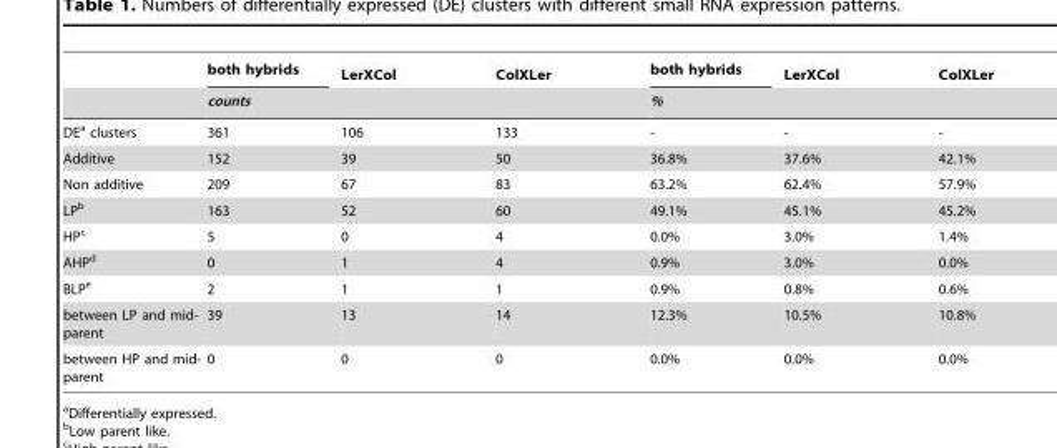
<table><thead><tr><td rowspan="2"></td><td>both hybrids</td><td>LerXCol</td><td>ColXLer</td><td>both hybrids</td><td>LerXCol</td><td>ColXLer</td></tr><tr><td colspan="3">counts</td><td colspan="3">%</td></tr></thead><tbody><tr><td>DE<sup>a</sup> clusters</td><td>361</td><td>106</td><td>133</td><td>-</td><td>-</td><td>-</td></tr><tr><td>Additive</td><td>152</td><td>39</td><td>50</td><td>36.8%</td><td>37.6%</td><td>42.1%</td></tr><tr><td>Non additive</td><td>209</td><td>67</td><td>83</td><td>63.2%</td><td>62.4%</td><td>57.9%</td></tr><tr><td>LP<sup>b</sup></td><td>163</td><td>52</td><td>60</td><td>49.1%</td><td>45.1%</td><td>45.2%</td></tr><tr><td>HP<sup>c</sup></td><td>5</td><td>0</td><td>4</td><td>0.0%</td><td>3.0%</td><td>1.4%</td></tr><tr><td>AHP<sup>d</sup></td><td>0</td><td>1</td><td>4</td><td>0.9%</td><td>3.0%</td><td>0.0%</td></tr><tr><td>BLP<sup>e</sup></td><td>2</td><td>1</td><td>1</td><td>0.9%</td><td>0.8%</td><td>0.6%</td></tr><tr><td>between LP and mid- parent</td><td>39</td><td>13</td><td>14</td><td>12.3%</td><td>10.5%</td><td>10.8%</td></tr><tr><td>between HP and mid- parent</td><td>0</td><td>0</td><td>0</td><td>0.0%</td><td>0.0%</td><td>0.0%</td></tr></tbody></table>